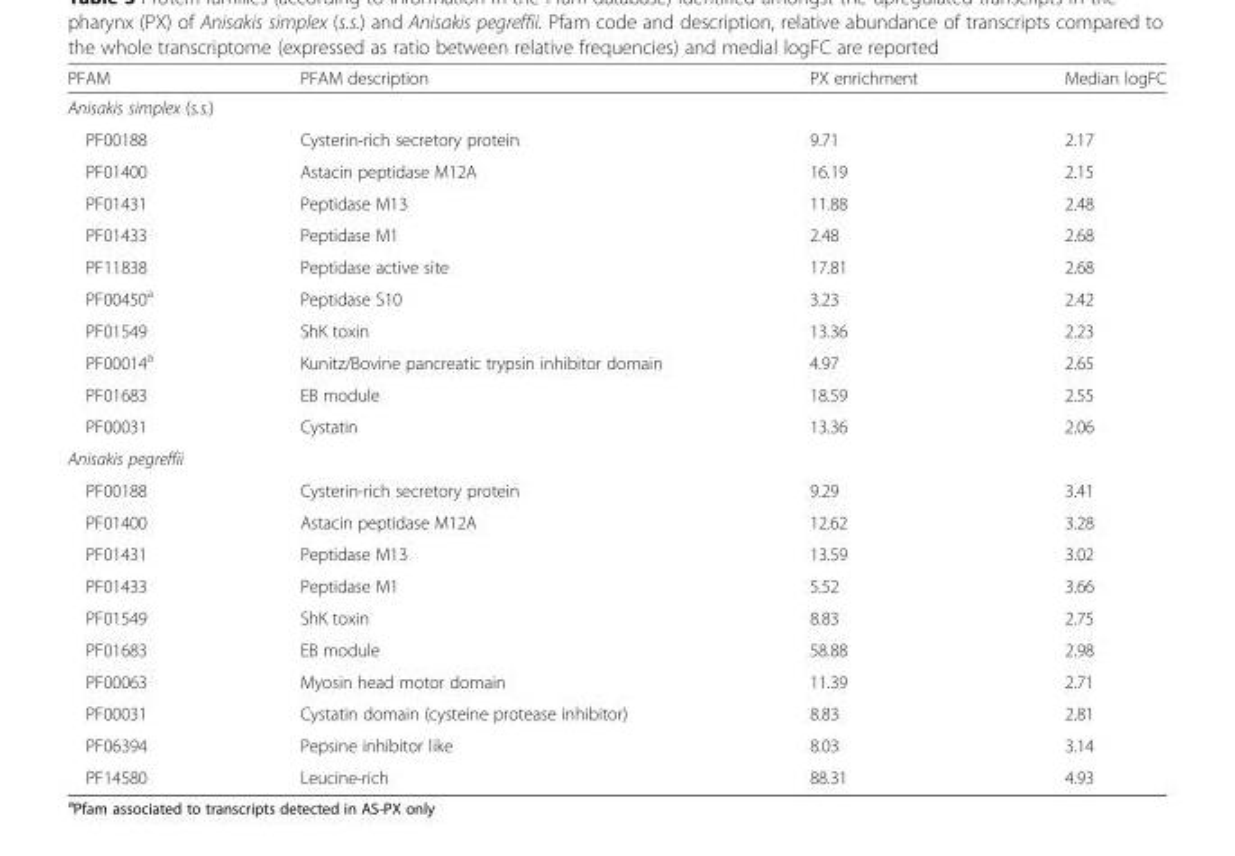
<table><thead><tr><td>PFAM</td><td>PFAM description</td><td>PX enrichment</td><td>Median logFC</td></tr></thead><tbody><tr><td colspan="4">Anisakis simplex (s.s.)</td></tr><tr><td>PF00188</td><td>Cysterin-rich secretory protein</td><td>9.71</td><td>2.17</td></tr><tr><td>PF01400</td><td>Astacin peptidase M12A</td><td>16.19</td><td>2.15</td></tr><tr><td>PF01431</td><td>Peptidase M13</td><td>11.88</td><td>2.48</td></tr><tr><td>PF01433</td><td>Peptidase M1</td><td>2.48</td><td>2.68</td></tr><tr><td>PF11838</td><td>Peptidase active site</td><td>17.81</td><td>2.68</td></tr><tr><td>PF00450<sup>a</sup></td><td>Peptidase S10</td><td>3.23</td><td>2.42</td></tr><tr><td>PF01549</td><td>ShK toxin</td><td>13.36</td><td>2.23</td></tr><tr><td>PF00014<sup>a</sup></td><td>Kunitz/Bovine pancreatic trypsin inhibitor domain</td><td>4.97</td><td>2.65</td></tr><tr><td>PF01683</td><td>EB module</td><td>18.59</td><td>2.55</td></tr><tr><td>PF00031</td><td>Cystatin</td><td>13.36</td><td>2.06</td></tr><tr><td colspan="4">Anisakis pegreffii</td></tr><tr><td>PF00188</td><td>Cysterin-rich secretory protein</td><td>9.29</td><td>3.41</td></tr><tr><td>PF01400</td><td>Astacin peptidase M12A</td><td>12.62</td><td>3.28</td></tr><tr><td>PF01431</td><td>Peptidase M13</td><td>13.59</td><td>3.02</td></tr><tr><td>PF01433</td><td>Peptidase M1</td><td>5.52</td><td>3.66</td></tr><tr><td>PF01549</td><td>ShK toxin</td><td>8.83</td><td>2.75</td></tr><tr><td>PF01683</td><td>EB module</td><td>58.88</td><td>2.98</td></tr><tr><td>PF00063</td><td>Myosin head motor domain</td><td>11.39</td><td>2.71</td></tr><tr><td>PF00031</td><td>Cystatin domain (cysteine protease inhibitor)</td><td>8.83</td><td>2.81</td></tr><tr><td>PF06394</td><td>Pepsine inhibitor like</td><td>8.03</td><td>3.14</td></tr><tr><td>PF14580</td><td>Leucine-rich</td><td>88.31</td><td>4.93</td></tr></tbody></table>